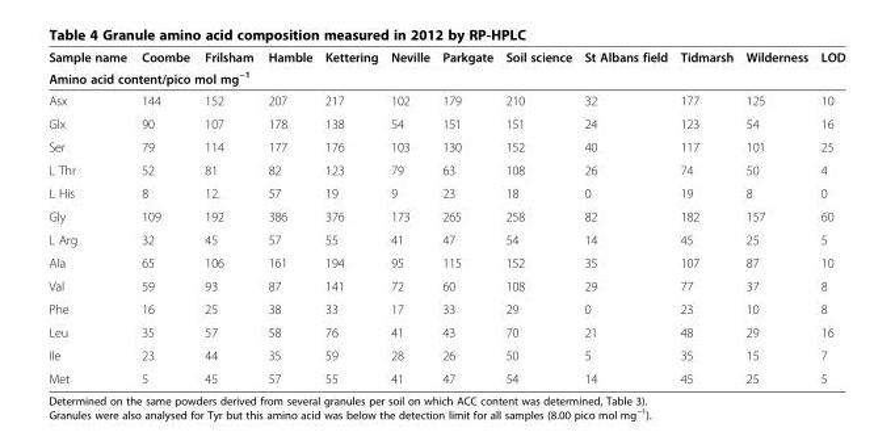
<table><thead><tr><td>Sample name</td><td>Coombe</td><td>Frilsham</td><td rowspan="2">Hamble</td><td rowspan="2">Kettering</td><td rowspan="2">Neville</td><td rowspan="2">Parkgate</td><td rowspan="2">Soil science</td><td rowspan="2">St Albans field</td><td rowspan="2">Tidmarsh</td><td rowspan="2">Wilderness</td><td rowspan="2">LOD</td></tr><tr><td colspan="3">Amino acid content/pico mol mg<sup>−1</sup></td></tr></thead><tbody><tr><td>Asx</td><td>144</td><td>152</td><td>207</td><td>217</td><td>102</td><td>179</td><td>210</td><td>32</td><td>177</td><td>125</td><td>10</td></tr><tr><td>Glx</td><td>90</td><td>107</td><td>178</td><td>138</td><td>54</td><td>151</td><td>151</td><td>24</td><td>123</td><td>54</td><td>16</td></tr><tr><td>Ser</td><td>79</td><td>114</td><td>177</td><td>176</td><td>103</td><td>130</td><td>152</td><td>40</td><td>117</td><td>101</td><td>25</td></tr><tr><td>L Thr</td><td>52</td><td>81</td><td>82</td><td>123</td><td>79</td><td>63</td><td>108</td><td>26</td><td>74</td><td>50</td><td>4</td></tr><tr><td>L His</td><td>8</td><td>12.</td><td>57</td><td>19</td><td>9</td><td>23</td><td>18</td><td>0</td><td>19</td><td>8</td><td>0</td></tr><tr><td>Gly</td><td>109</td><td>192</td><td>386</td><td>376</td><td>173</td><td>265</td><td>258</td><td>82</td><td>182</td><td>157</td><td>60</td></tr><tr><td>L Arg</td><td>32</td><td>45</td><td>57</td><td>55</td><td>41</td><td>47</td><td>54</td><td>14</td><td>45</td><td>25</td><td>5</td></tr><tr><td>Ala</td><td>65</td><td>106</td><td>161</td><td>194</td><td>95</td><td>115</td><td>152</td><td>35</td><td>107</td><td>87</td><td>10</td></tr><tr><td>Val</td><td>59</td><td>93</td><td>87</td><td>141</td><td>72</td><td>60</td><td>108</td><td>29</td><td>77</td><td>37</td><td>8</td></tr><tr><td>Phe</td><td>16</td><td>25</td><td>38</td><td>33</td><td>17</td><td>33</td><td>29</td><td>0</td><td>23</td><td>10</td><td>8</td></tr><tr><td>Leu</td><td>35</td><td>57</td><td>58</td><td>76</td><td>41</td><td>43</td><td>70</td><td>21</td><td>48</td><td>29</td><td>16</td></tr><tr><td>Ile</td><td>23</td><td>44</td><td>35</td><td>59</td><td>28</td><td>26</td><td>50</td><td>5</td><td>35</td><td>15</td><td>7</td></tr><tr><td>Met</td><td>5</td><td>45</td><td>57</td><td>55</td><td>41</td><td>47</td><td>54</td><td>14</td><td>45</td><td>25</td><td>5</td></tr></tbody></table>